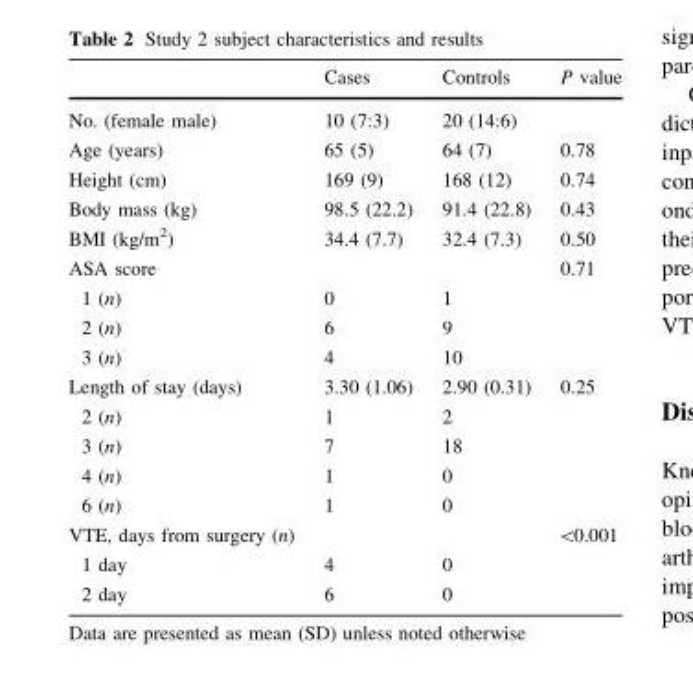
<table><thead><tr><td></td><td>Cases</td><td>Controls</td><td>P value</td></tr></thead><tbody><tr><td>No. (female male)</td><td>10 (7:3)</td><td>20 (14:6)</td><td></td></tr><tr><td>Age (years)</td><td>65 (5)</td><td>64 (7)</td><td>0.78</td></tr><tr><td>Height (cm)</td><td>169 (9)</td><td>168 (12)</td><td>0.74</td></tr><tr><td>Body mass (kg)</td><td>98.5 (22.2)</td><td>91.4 (22.8)</td><td>0.43</td></tr><tr><td>BMI (kg/m<sup>2</sup>)</td><td>34.4 (7.7)</td><td>32.4 (7.3)</td><td>0.50</td></tr><tr><td>ASA score</td><td></td><td></td><td>0.71</td></tr><tr><td>1 (n)</td><td>0</td><td>1</td><td></td></tr><tr><td>2 (n)</td><td>6</td><td>9</td><td></td></tr><tr><td>3 (n)</td><td>4</td><td>10</td><td></td></tr><tr><td>Length of stay (days)</td><td>3.30 (1.06)</td><td>2.90 (0.31)</td><td>0.25</td></tr><tr><td>2 (n)</td><td>1</td><td>2</td><td></td></tr><tr><td>3 (n)</td><td>7</td><td>18</td><td></td></tr><tr><td>4 (n)</td><td>1</td><td>0</td><td></td></tr><tr><td>6 (n)</td><td>1</td><td>0</td><td></td></tr><tr><td>VTE, days from surgery (n)</td><td></td><td></td><td>&lt;0.001</td></tr><tr><td>1 day</td><td>4</td><td>0</td><td></td></tr><tr><td>2 day</td><td>6</td><td>0</td><td></td></tr></tbody></table>